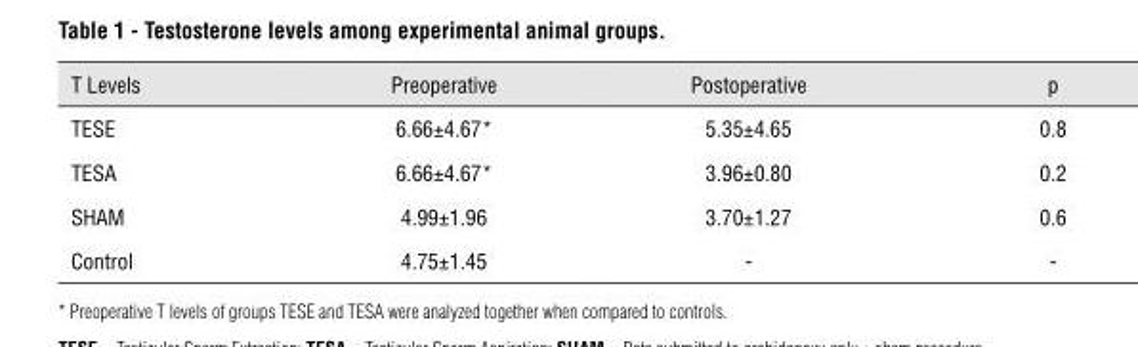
<table><thead><tr><td>T Levels</td><td>Preoperative</td><td>Postoperative</td><td>p</td></tr></thead><tbody><tr><td>TESE</td><td>6.66±4.67*</td><td>5.35±4.65</td><td>0.8</td></tr><tr><td>TESA</td><td>6.66±4.67*</td><td>3.96±0.80</td><td>0.2</td></tr><tr><td>SHAM</td><td>4.99±1.96</td><td>3.70±1.27</td><td>0.6</td></tr><tr><td>Control</td><td>4.75±1.45</td><td>-</td><td>-</td></tr></tbody></table>